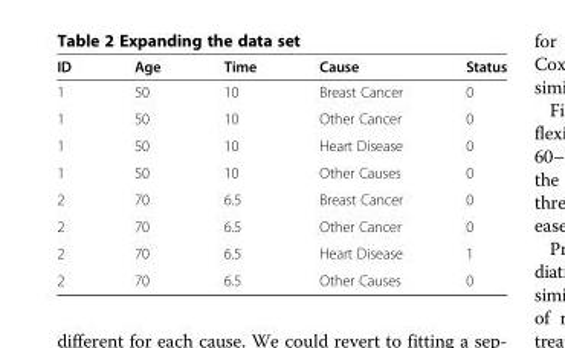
<table><thead><tr><td>ID</td><td>Age</td><td>Time</td><td>Cause</td><td>Status</td></tr></thead><tbody><tr><td>1</td><td>50</td><td>10</td><td>Breast Cancer</td><td>0</td></tr><tr><td>1</td><td>50</td><td>10</td><td>Other Cancer</td><td>0</td></tr><tr><td>1</td><td>50</td><td>10</td><td>Heart Disease</td><td>0</td></tr><tr><td>1</td><td>50</td><td>10</td><td>Other Causes</td><td>0</td></tr><tr><td>2</td><td>70</td><td>6.5</td><td>Breast Cancer</td><td>0</td></tr><tr><td>2</td><td>70</td><td>6.5</td><td>Other Cancer</td><td>0</td></tr><tr><td>2</td><td>70</td><td>6.5</td><td>Heart Disease</td><td>1</td></tr><tr><td>2</td><td>70</td><td>6.5</td><td>Other Causes</td><td>0</td></tr></tbody></table>